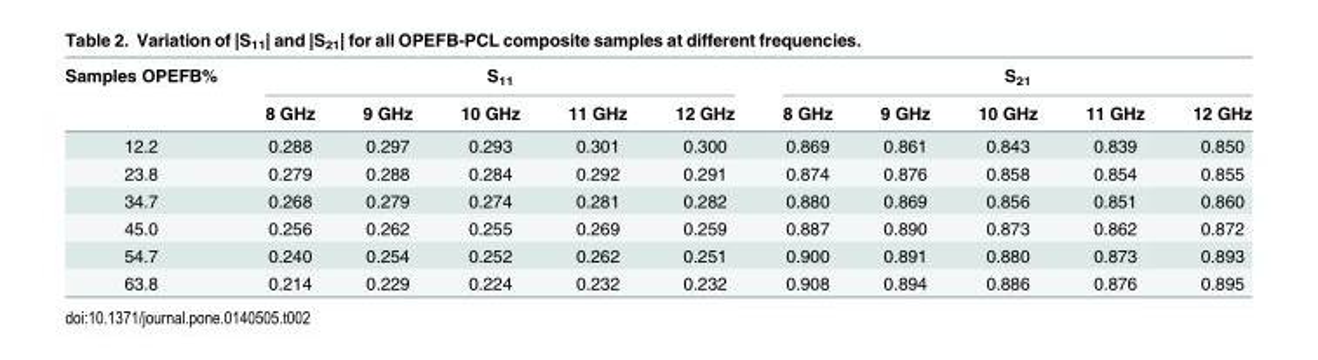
<table><thead><tr><td rowspan="2">Samples OPEFB%</td><td colspan="5">S<sub>11</sub></td><td colspan="5">S<sub>21</sub></td></tr><tr><td>8 GHz</td><td>9 GHz</td><td>10 GHz</td><td>11 GHz</td><td>12 GHz</td><td>8 GHz</td><td>9 GHz</td><td>10 GHz</td><td>11 GHz</td><td>12 GHz</td></tr></thead><tbody><tr><td>12.2</td><td>0.288</td><td>0.297</td><td>0.293</td><td>0.301</td><td>0.300</td><td>0.869</td><td>0.861</td><td>0.843</td><td>0.839</td><td>0.850</td></tr><tr><td>23.8</td><td>0.279</td><td>0.288</td><td>0.284</td><td>0.292</td><td>0.291</td><td>0.874</td><td>0.876</td><td>0.858</td><td>0.854</td><td>0.855</td></tr><tr><td>34.7</td><td>0.268</td><td>0.279</td><td>0.274</td><td>0.281</td><td>0.282</td><td>0.880</td><td>0.869</td><td>0.856</td><td>0.851</td><td>0.860</td></tr><tr><td>45.0</td><td>0.256</td><td>0.262</td><td>0.255</td><td>0.269</td><td>0.259</td><td>0.887</td><td>0.890</td><td>0.873</td><td>0.862</td><td>0.872</td></tr><tr><td>54.7</td><td>0.240</td><td>0.254</td><td>0.252</td><td>0.262</td><td>0.251</td><td>0.900</td><td>0.891</td><td>0.880</td><td>0.873</td><td>0.893</td></tr><tr><td>63.8</td><td>0.214</td><td>0.229</td><td>0.224</td><td>0.232</td><td>0.232</td><td>0.908</td><td>0.894</td><td>0.886</td><td>0.876</td><td>0.895</td></tr></tbody></table>